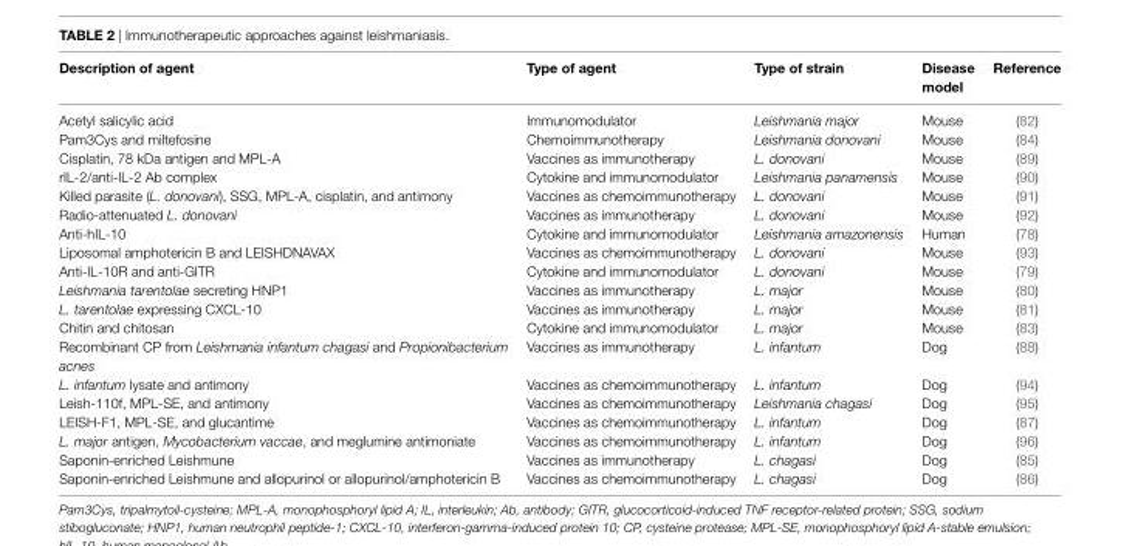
<table><thead><tr><td>Description of agent</td><td>Type of agent</td><td>Type of strain</td><td>Disease model</td><td>Reference</td></tr></thead><tbody><tr><td>Acetyl salicylic acid</td><td>Immunomodulator</td><td>Leishmania major</td><td>Mouse</td><td>(82)</td></tr><tr><td>Pam3Cys and miltefosine</td><td>Chemoimmunotherapy</td><td>Leishmania donovani</td><td>Mouse</td><td>(84)</td></tr><tr><td>Cisplatin, 78 kDa antigen and MPL-A</td><td>Vaccines as immunotherapy</td><td>L. donovani</td><td>Mouse</td><td>(89)</td></tr><tr><td>rIL-2/anti-IL-2 Ab complex</td><td>Cytokine and immunomodulator</td><td>Leishmania panamensis</td><td>Mouse</td><td>(90)</td></tr><tr><td>Killed parasite (L. donovani), SSG, MPL-A, cisplatin, and antimony</td><td>Vaccines as chemoimmunotherapy</td><td>L. donovani</td><td>Mouse</td><td>(91)</td></tr><tr><td>Radio-attenuated L. donovani</td><td>Vaccines as immunotherapy</td><td>L. donovani</td><td>Mouse</td><td>(92)</td></tr><tr><td>Anti-hIL-10</td><td>Cytokine and immunomodulator</td><td>Leishmania amazonensis</td><td>Human</td><td>(78)</td></tr><tr><td>Liposomal amphotericin B and LEISHDNAVAX</td><td>Vaccines as chemoimmunotherapy</td><td>L. donovani</td><td>Mouse</td><td>(93)</td></tr><tr><td>Anti-IL-10R and anti-GITR</td><td>Cytokine and immunomodulator</td><td>L. donovani</td><td>Mouse</td><td>(79)</td></tr><tr><td>Leishmania tarentolae secreting HNP1</td><td>Vaccines as immunotherapy</td><td>L. major</td><td>Mouse</td><td>(80)</td></tr><tr><td>L. tarentolae expressing CXCL-10</td><td>Vaccines as immunotherapy</td><td>L. major</td><td>Mouse</td><td>(81)</td></tr><tr><td>Chitin and chitosan</td><td>Cytokine and immunomodulator</td><td>L. major</td><td>Mouse</td><td>(83)</td></tr><tr><td>Recombinant CP from Leishmania infantum chagasi and Propionibacterium acnes</td><td>Vaccines as immunotherapy</td><td>L. infantum</td><td>Dog</td><td>(88)</td></tr><tr><td>L. infantum lysate and antimony</td><td>Vaccines as chemoimmunotherapy</td><td>L. infantum</td><td>Dog</td><td>(94)</td></tr><tr><td>Leish-110f, MPL-SE, and antimony</td><td>Vaccines as chemoimmunotherapy</td><td>Leishmania chagasi</td><td>Dog</td><td>(95)</td></tr><tr><td>LEISH-F1, MPL-SE, and glucantime</td><td>Vaccines as chemoimmunotherapy</td><td>L. infantum</td><td>Dog</td><td>(87)</td></tr><tr><td>L. major antigen, Mycobacterium vaccae, and meglumine antimoniate</td><td>Vaccines as chemoimmunotherapy</td><td>L. infantum</td><td>Dog</td><td>(96)</td></tr><tr><td>Saponin-enriched Leishmune</td><td>Vaccines as immunotherapy</td><td>L. chagasi</td><td>Dog</td><td>(85)</td></tr><tr><td>Saponin-enriched Leishmune and allopurinol or allopurinol/amphotericin B</td><td>Vaccines as chemoimmunotherapy</td><td>L. chagasi</td><td>Dog</td><td>(86)</td></tr></tbody></table>